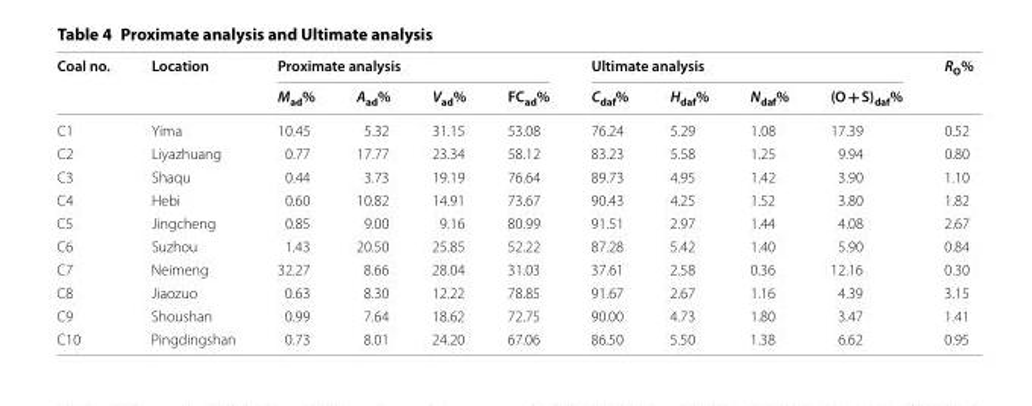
<table><thead><tr><td rowspan="2">Coal no.</td><td rowspan="2">Location</td><td colspan="4">Proximate analysis</td><td colspan="4">Ultimate analysis</td><td rowspan="2">R<sub>O</sub>%</td></tr><tr><td>M<sub>ad</sub>%</td><td>A<sub>ad</sub>%</td><td>V<sub>ad</sub>%</td><td>FC<sub>ad</sub>%</td><td>C<sub>daf</sub>%</td><td>H<sub>daf</sub>%</td><td>N<sub>daf</sub>%</td><td>(O + S)<sub>daf</sub>%</td></tr></thead><tbody><tr><td>C1</td><td>Yima</td><td>10.45</td><td>5.32</td><td>31.15</td><td>53.08</td><td>76.24</td><td>5.29</td><td>1.08</td><td>17.39</td><td>0.52</td></tr><tr><td>C2</td><td>Liyazhuang</td><td>0.77</td><td>17.77</td><td>23.34</td><td>58.12</td><td>83.23</td><td>5.58</td><td>1.25</td><td>9.94</td><td>0.80</td></tr><tr><td>C3</td><td>Shaqu</td><td>0.44</td><td>3.73</td><td>19.19</td><td>76.64</td><td>89.73</td><td>4.95</td><td>1.42</td><td>3.90</td><td>1.10</td></tr><tr><td>C4</td><td>Hebi</td><td>0.60</td><td>10.82</td><td>14.91</td><td>73.67</td><td>90.43</td><td>4.25</td><td>1.52</td><td>3.80</td><td>1.82</td></tr><tr><td>C5</td><td>Jingcheng</td><td>0.85</td><td>9.00</td><td>9.16</td><td>80.99</td><td>91.51</td><td>2.97</td><td>1.44</td><td>4.08</td><td>2.67</td></tr><tr><td>C6</td><td>Suzhou</td><td>1.43</td><td>20.50</td><td>25.85</td><td>52.22</td><td>87.28</td><td>5.42</td><td>1.40</td><td>5.90</td><td>0.84</td></tr><tr><td>C7</td><td>Neimeng</td><td>32.27</td><td>8.66</td><td>28.04</td><td>31.03</td><td>37.61</td><td>2.58</td><td>0.36</td><td>12.16</td><td>0.30</td></tr><tr><td>C8</td><td>Jiaozuo</td><td>0.63</td><td>8.30</td><td>12.22</td><td>78.85</td><td>91.67</td><td>2.67</td><td>1.16</td><td>4.39</td><td>3.15</td></tr><tr><td>C9</td><td>Shoushan</td><td>0.99</td><td>7.64</td><td>18.62</td><td>72.75</td><td>90.00</td><td>4.73</td><td>1.80</td><td>3.47</td><td>1.41</td></tr><tr><td>C10</td><td>Pingdingshan</td><td>0.73</td><td>8.01</td><td>24.20</td><td>67.06</td><td>86.50</td><td>5.50</td><td>1.38</td><td>6.62</td><td>0.95</td></tr></tbody></table>